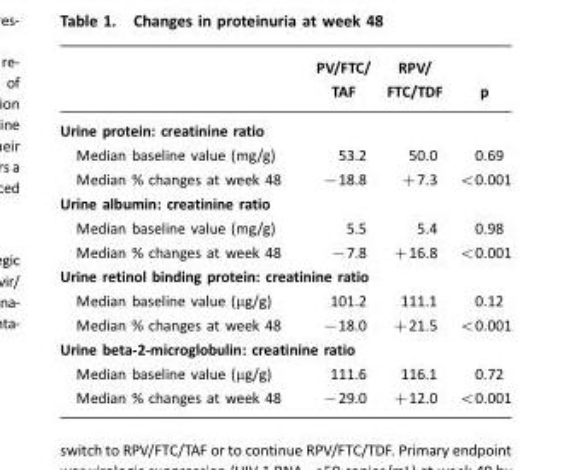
<table><thead><tr><td></td><td>PV/FTC/ TAF</td><td>RPV/ FTC/TDF</td><td>p</td></tr></thead><tbody><tr><td colspan="4">Urine protein: creatinine ratio</td></tr><tr><td>Median baseline value (mg/g)</td><td>53.2</td><td>50.0</td><td>0.69</td></tr><tr><td>Median % changes at week 48</td><td>−18.8</td><td>+7.3</td><td>&lt;0.001</td></tr><tr><td colspan="4">Urine albumin: creatinine ratio</td></tr><tr><td>Median baseline value (mg/g)</td><td>5.5</td><td>5.4</td><td>0.98</td></tr><tr><td>Median % changes at week 48</td><td>−7.8</td><td>+16.8</td><td>&lt;0.001</td></tr><tr><td colspan="4">Urine retinol binding protein: creatinine ratio</td></tr><tr><td>Median baseline value (µg/g)</td><td>101.2</td><td>111.1</td><td>0.12</td></tr><tr><td>Median % changes at week 48</td><td>−18.0</td><td>+21.5</td><td>&lt;0.001</td></tr><tr><td colspan="4">Urine beta-2-microglobulin: creatinine ratio</td></tr><tr><td>Median baseline value (µg/g)</td><td>111.6</td><td>116.1</td><td>0.72</td></tr><tr><td>Median % changes at week 48</td><td>−29.0</td><td>+12.0</td><td>&lt;0.001</td></tr></tbody></table>